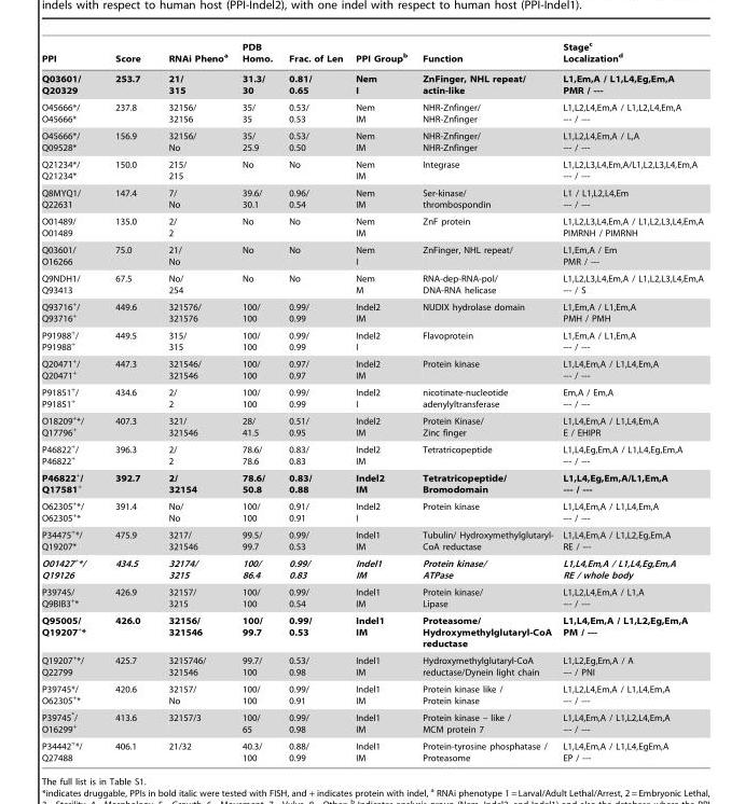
<table><thead><tr><td>PPI</td><td>Score</td><td>RNAi Pheno<sup>a</sup></td><td>PDB Homo.</td><td>Frac. of Len</td><td>PPI Group<sup>b</sup></td><td>Function</td><td>Stage<sup>c</sup> Localization<sup>d</sup></td></tr></thead><tbody><tr><td>Q03601/ Q20329</td><td>253.7</td><td>21/ 315</td><td>31.3/ 30</td><td>0.81/ 0.65</td><td>Nem I</td><td>ZnFinger, NHL repeat/ actin-like</td><td>L1,Em,A / L1,L4,Eg,Em,A PMR / ---</td></tr><tr><td>O45666*/ O45666*</td><td>237.8</td><td>32156/ 32156</td><td>35/ 35</td><td>0.53/ 0.53</td><td>Nem IM</td><td>NHR-Znfinger/ NHR-Znfinger</td><td>L1,L2,L4,Em,A / L1,L2,L4,Em,A --- / ---</td></tr><tr><td>O45666*/ Q09528*</td><td>156.9</td><td>32156/ No</td><td>35/ 25.9</td><td>0.53/ 0.50</td><td>Nem IM</td><td>NHR-Znfinger/ NHR-Znfinger</td><td>L1,L2,L4,Em,A / L,A --- / ---</td></tr><tr><td>Q21234*/ Q21234*</td><td>150.0</td><td>215/ 215</td><td>No</td><td>No</td><td>Nem IM</td><td>Integrase</td><td>L1,L2,L3,L4,Em,A/L1,L2,L3,L4,Em,A --- / ---</td></tr><tr><td>Q8MYQ1/ Q22631</td><td>147.4</td><td>7/ No</td><td>39.6/ 30.1</td><td>0.96/ 0.54</td><td>Nem IM</td><td>Ser-kinase/ thrombospondin</td><td>L1 / L1,L2,L4,Em --- / ---</td></tr><tr><td>O01489/ O01489</td><td>135.0</td><td>2/ 2</td><td>No</td><td>No</td><td>Nem IM</td><td>ZnF protein</td><td>L1,L2,L3,L4,Em,A / L1,L2,L3,L4,Em,A PIMRNH / PIMRNH</td></tr><tr><td>Q03601/ O16266</td><td>75.0</td><td>21/ No</td><td>No</td><td>No</td><td>Nem I</td><td>ZnFinger, NHL repeat/</td><td>L1,Em,A / Em PMR / ---</td></tr><tr><td>Q9NDH1/ Q93413</td><td>67.5</td><td>No/ 254</td><td>No</td><td>No</td><td>Nem M</td><td>RNA-dep-RNA-pol/ DNA-RNA helicase</td><td>L1,L2,L3,L4,Em,A / L1,L2,L3,L4,Em,A --- / S</td></tr><tr><td>Q93716<sup>+</sup>/ Q93716<sup>+</sup></td><td>449.6</td><td>321576/ 321576</td><td>100/ 100</td><td>0.99/ 0.99</td><td>Indel2 IM</td><td>NUDIX hydrolase domain</td><td>L1,Em,A / L1,Em,A PMH / PMH</td></tr><tr><td>P91988<sup>+</sup>/ P91988<sup>+</sup></td><td>449.5</td><td>315/ 315</td><td>100/ 100</td><td>0.99/ 0.99</td><td>Indel2 I</td><td>Flavoprotein</td><td>L1,Em,A / L1,Em,A --- / ---</td></tr><tr><td>Q20471<sup>+</sup>/ Q20471<sup>+</sup></td><td>447.3</td><td>321546/ 321546</td><td>100/ 100</td><td>0.97/ 0.97</td><td>Indel2 IM</td><td>Protein kinase</td><td>L1,L4,Em,A / L1,L4,Em,A --- / ---</td></tr><tr><td>P91851<sup>+</sup>/ P91851<sup>+</sup></td><td>434.6</td><td>2/ 2</td><td>100/ 100</td><td>0.99/ 0.99</td><td>Indel2 I</td><td>nicotinate-nucleotide adenylyltransferase</td><td>Em,A / Em,A --- / ---</td></tr><tr><td>O18209<sup>+</sup>*/ Q17796<sup>+</sup></td><td>407.3</td><td>321/ 321546</td><td>28/ 41.5</td><td>0.51/ 0.95</td><td>Indel2 IM</td><td>Protein Kinase/ Zinc finger</td><td>L1,L4,Em,A / L1,L4,Em,A E / EHIPR</td></tr><tr><td>P46822<sup>+</sup>/ P46822<sup>+</sup></td><td>396.3</td><td>2/ 2</td><td>78.6/ 78.6</td><td>0.83/ 0.83</td><td>Indel2 IM</td><td>Tetratricopeptide</td><td>L1,L4,Eg,Em,A / L1,L4,Eg,Em,A --- / ---</td></tr><tr><td>P46822<sup>+</sup>/ Q17581<sup>+</sup></td><td>392.7</td><td>2/ 32154</td><td>78.6/ 50.8</td><td>0.83/ 0.88</td><td>Indel2 IM</td><td>Tetratricopeptide/ Bromodomain</td><td>L1,L4,Eg,Em,A/L1,Em,A --- / ---</td></tr><tr><td>O62305<sup>+</sup>*/ O62305<sup>+</sup>*</td><td>391.4</td><td>No/ No</td><td>100/ 100</td><td>0.91/ 0.91</td><td>Indel2 I</td><td>Protein kinase</td><td>L1,L4,Em,A / L1,L4,Em,A --- / ---</td></tr><tr><td>P34475<sup>+</sup>*/ Q19207*</td><td>475.9</td><td>3217/ 321546</td><td>99.5/ 99.7</td><td>0.99/ 0.53</td><td>Indel1 IM</td><td>Tubulin/ Hydroxymethylglutaryl- CoA reductase</td><td>L1,L4,Em,A / L1,L2,Eg,Em,A RE / ---</td></tr><tr><td>O01427<sup>+</sup>*/ Q19126</td><td>434.5</td><td>32174/ 3215</td><td>100/ 86.4</td><td>0.99/ 0.83</td><td>Indel1 IM</td><td>Protein kinase/ ATPase</td><td>L1,L4,Em,A / L1,L4,Eg,Em,A RE / whole body</td></tr><tr><td>P39745/ Q9BIB3<sup>+</sup>*</td><td>426.9</td><td>32157/ 3215</td><td>100/ 100</td><td>0.99/ 0.54</td><td>Indel1 IM</td><td>Protein kinase/ Lipase</td><td>L1,L2,L4,Em,A / L1,A --- / ---</td></tr><tr><td>Q95005/ Q19207<sup>+</sup>*</td><td>426.0</td><td>32156/ 321546</td><td>100/ 99.7</td><td>0.99/ 0.53</td><td>Indel1 IM</td><td>Proteasome/ Hydroxymethylglutaryl-CoA reductase</td><td>L1,L4,Em,A / L1,L2,Eg,Em,A PM / ---</td></tr><tr><td>Q19207<sup>+</sup>*/ Q22799</td><td>425.7</td><td>3215746/ 321546</td><td>99.7/ 100</td><td>0.53/ 0.98</td><td>Indel1 IM</td><td>Hydroxymethylglutaryl-CoA reductase/Dynein light chain</td><td>L1,L2,Eg,Em,A / A --- / PNI</td></tr><tr><td>P39745*/ O62305<sup>+</sup>*</td><td>420.6</td><td>32157/ No</td><td>100/ 100</td><td>0.99/ 0.91</td><td>Indel1 IM</td><td>Protein kinase like / Protein kinase</td><td>L1,L2,L4,Em,A / L1,L4,Em,A --- / ---</td></tr><tr><td>P39745*/ O16299<sup>+</sup></td><td>413.6</td><td>32157/3</td><td>100/ 65</td><td>0.99/ 0.98</td><td>Indel1 IM</td><td>Protein kinase – like / MCM protein 7</td><td>L1,L4,Em,A / L1,L2,L4,Em,A --- / ---</td></tr><tr><td>P34442<sup>+</sup>*/ Q27488</td><td>406.1</td><td>21/32</td><td>40.3/ 100</td><td>0.88/ 0.99</td><td>Indel1 IM</td><td>Protein-tyrosine phosphatase / Proteasome</td><td>L1,L4,Em,A / L1,L4,EgEm,A EP / ---</td></tr></tbody></table>